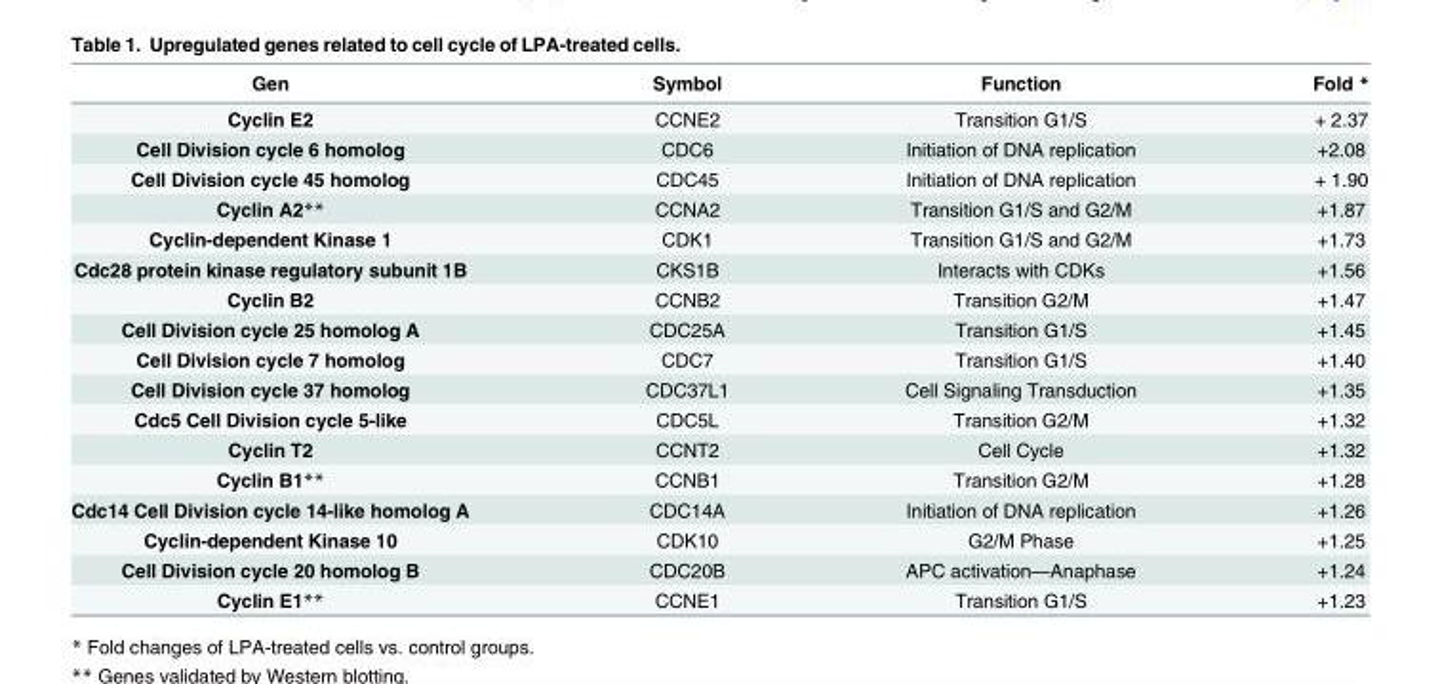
<table><thead><tr><td>Gen</td><td>Symbol</td><td>Function</td><td>Fold *</td></tr></thead><tbody><tr><td>Cyclin E2</td><td>CCNE2</td><td>Transition G1/S</td><td>+ 2.37</td></tr><tr><td>Cell Division cycle 6 homolog</td><td>CDC6</td><td>Initiation of DNA replication</td><td>+2.08</td></tr><tr><td>Cell Division cycle 45 homolog</td><td>CDC45</td><td>Initiation of DNA replication</td><td>+ 1.90</td></tr><tr><td>Cyclin A2**</td><td>CCNA2</td><td>Transition G1/S and G2/M</td><td>+1.87</td></tr><tr><td>Cyclin-dependent Kinase 1</td><td>CDK1</td><td>Transition G1/S and G2/M</td><td>+1.73</td></tr><tr><td>Cdc28 protein kinase regulatory subunit 1B</td><td>CKS1B</td><td>Interacts with CDKs</td><td>+1.56</td></tr><tr><td>Cyclin B2</td><td>CCNB2</td><td>Transition G2/M</td><td>+1.47</td></tr><tr><td>Cell Division cycle 25 homolog A</td><td>CDC25A</td><td>Transition G1/S</td><td>+1.45</td></tr><tr><td>Cell Division cycle 7 homolog</td><td>CDC7</td><td>Transition G1/S</td><td>+1.40</td></tr><tr><td>Cell Division cycle 37 homolog</td><td>CDC37L1</td><td>Cell Signaling Transduction</td><td>+1.35</td></tr><tr><td>Cdc5 Cell Division cycle 5-like</td><td>CDC5L</td><td>Transition G2/M</td><td>+1.32</td></tr><tr><td>Cyclin T2</td><td>CCNT2</td><td>Cell Cycle</td><td>+1.32</td></tr><tr><td>Cyclin B1**</td><td>CCNB1</td><td>Transition G2/M</td><td>+1.28</td></tr><tr><td>Cdc14 Cell Division cycle 14-like homolog A</td><td>CDC14A</td><td>Initiation of DNA replication</td><td>+1.26</td></tr><tr><td>Cyclin-dependent Kinase 10</td><td>CDK10</td><td>G2/M Phase</td><td>+1.25</td></tr><tr><td>Cell Division cycle 20 homolog B</td><td>CDC20B</td><td>APC activation—Anaphase</td><td>+1.24</td></tr><tr><td>Cyclin E1**</td><td>CCNE1</td><td>Transition G1/S</td><td>+1.23</td></tr></tbody></table>